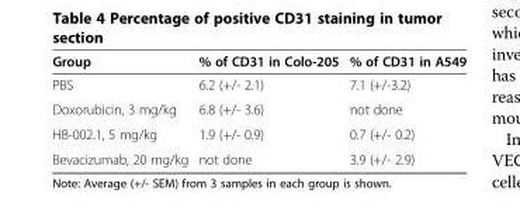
<table><thead><tr><td>Group</td><td>% of CD31 in Colo-205</td><td>% of CD31 in A549</td></tr></thead><tbody><tr><td>PBS</td><td>6.2 (+/- 2.1)</td><td>7.1 (+/-3.2)</td></tr><tr><td>Doxorubicin, 3 mg/kg</td><td>6.8 (+/- 3.6)</td><td>not done</td></tr><tr><td>HB-002.1, 5 mg/kg</td><td>1.9 (+/- 0.9)</td><td>0.7 (+/- 0.2)</td></tr><tr><td>Bevacizumab, 20 mg/kg</td><td>not done</td><td>3.9 (+/- 2.9)</td></tr></tbody></table>